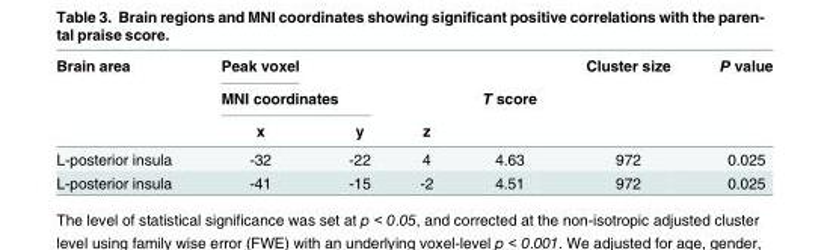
<table><thead><tr><td rowspan="3">Brain area</td><td>Peak voxel</td><td></td><td rowspan="3">z</td><td rowspan="3">T score</td><td rowspan="3">Cluster size</td><td rowspan="3">P value</td></tr><tr><td colspan="2">MNI coordinates</td></tr><tr><td>x</td><td>y</td></tr></thead><tbody><tr><td>L-posterior insula</td><td>-32</td><td>-22</td><td>4</td><td>4.63</td><td>972</td><td>0.025</td></tr><tr><td>L-posterior insula</td><td>-41</td><td>-15</td><td>-2</td><td>4.51</td><td>972</td><td>0.025</td></tr></tbody></table>